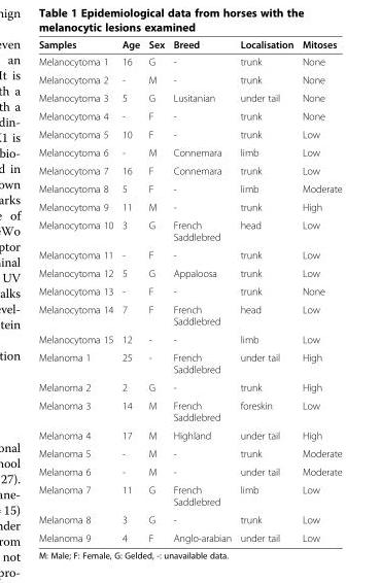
<table><thead><tr><td>Samples</td><td>Age</td><td>Sex</td><td>Breed</td><td>Localisation</td><td>Mitoses</td></tr></thead><tbody><tr><td>Melanocytoma 1</td><td>16</td><td>G</td><td>-</td><td>trunk</td><td>None</td></tr><tr><td>Melanocytoma 2</td><td>-</td><td>M</td><td>-</td><td>trunk</td><td>None</td></tr><tr><td>Melanocytoma 3</td><td>5</td><td>G</td><td>Lusitanian</td><td>under tail</td><td>None</td></tr><tr><td>Melanocytoma 4</td><td>-</td><td>F</td><td>-</td><td>trunk</td><td>None</td></tr><tr><td>Melanocytoma 5</td><td>10</td><td>F</td><td>-</td><td>trunk</td><td>Low</td></tr><tr><td>Melanocytoma 6</td><td>-</td><td>M</td><td>Connemara</td><td>limb</td><td>Low</td></tr><tr><td>Melanocytoma 7</td><td>16</td><td>F</td><td>Connemara</td><td>trunk</td><td>Low</td></tr><tr><td>Melanocytoma 8</td><td>5</td><td>F</td><td>-</td><td>limb</td><td>Moderate</td></tr><tr><td>Melanocytoma 9</td><td>11</td><td>M</td><td>-</td><td>trunk</td><td>High</td></tr><tr><td>Melanocytoma 10</td><td>3</td><td>G</td><td>French Saddlebred</td><td>head</td><td>Low</td></tr><tr><td>Melanocytoma 11</td><td>-</td><td>F</td><td>-</td><td>trunk</td><td>Low</td></tr><tr><td>Melanocytoma 12</td><td>5</td><td>G</td><td>Appaloosa</td><td>trunk</td><td>Low</td></tr><tr><td>Melanocytoma 13</td><td>-</td><td>F</td><td>-</td><td>trunk</td><td>None</td></tr><tr><td>Melanocytoma 14</td><td>7</td><td>F</td><td>French Saddlebred</td><td>head</td><td>Low</td></tr><tr><td>Melanocytoma 15</td><td>12</td><td>-</td><td>-</td><td>limb</td><td>Low</td></tr><tr><td>Melanoma 1</td><td>25</td><td>-</td><td>French Saddlebred</td><td>under tail</td><td>High</td></tr><tr><td>Melanoma 2</td><td>2</td><td>G</td><td>-</td><td>trunk</td><td>High</td></tr><tr><td>Melanoma 3</td><td>14</td><td>M</td><td>French Saddlebred</td><td>foreskin</td><td>Low</td></tr><tr><td>Melanoma 4</td><td>17</td><td>M</td><td>Highland</td><td>under tail</td><td>High</td></tr><tr><td>Melanoma 5</td><td>-</td><td>M</td><td>-</td><td>trunk</td><td>Moderate</td></tr><tr><td>Melanoma 6</td><td>-</td><td>M</td><td>-</td><td>under tail</td><td>Moderate</td></tr><tr><td>Melanoma 7</td><td>11</td><td>G</td><td>French Saddlebred</td><td>limb</td><td>Low</td></tr><tr><td>Melanoma 8</td><td>3</td><td>G</td><td>-</td><td>trunk</td><td>Low</td></tr><tr><td>Melanoma 9</td><td>4</td><td>F</td><td>Anglo-arabian</td><td>under tail</td><td>Low</td></tr></tbody></table>